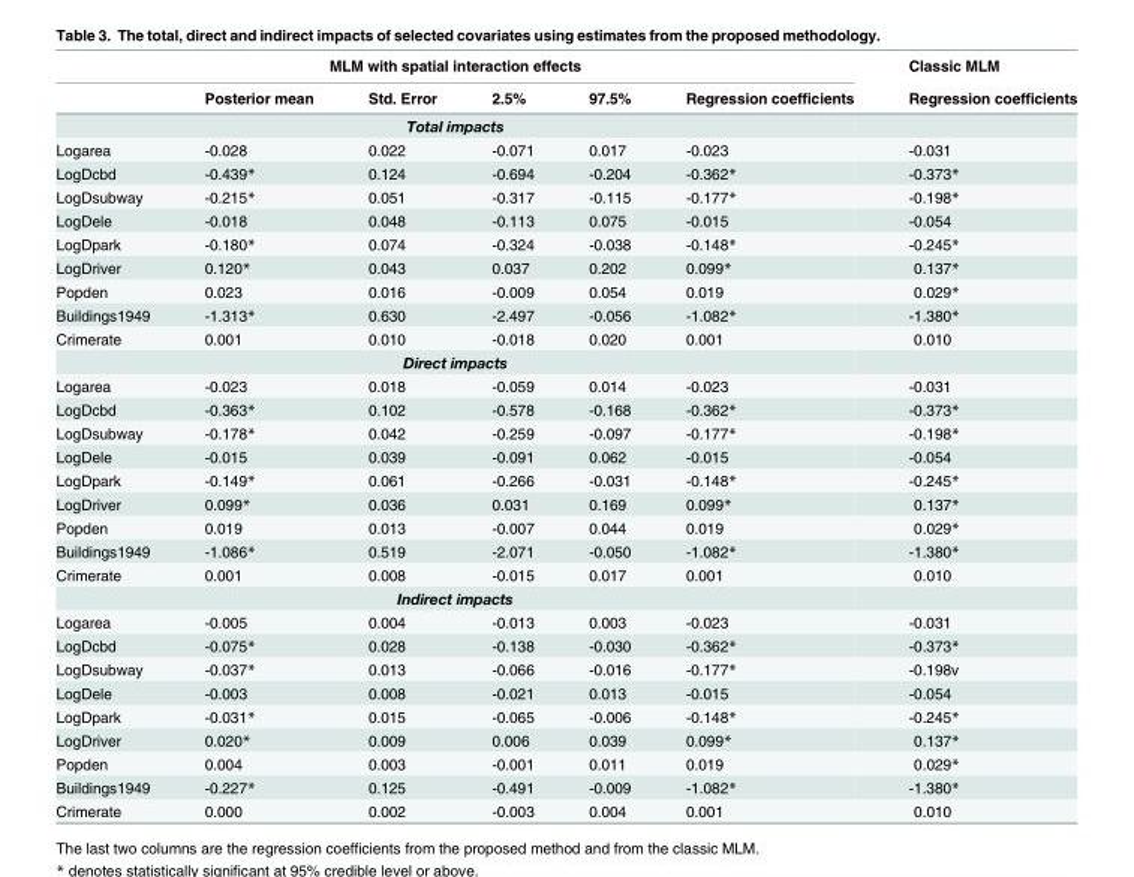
<table><thead><tr><td colspan="6">MLM with spatial interaction effects</td><td rowspan="2">Classic MLM Regression coefficients</td></tr><tr><td></td><td>Posterior mean</td><td>Std. Error</td><td>2.5%</td><td>97.5%</td><td>Regression coefficients</td></tr></thead><tbody><tr><td colspan="7">Total impacts</td></tr><tr><td>Logarea</td><td>-0.028</td><td>0.022</td><td>-0.071</td><td>0.017</td><td>-0.023</td><td>-0.031</td></tr><tr><td>LogDcbd</td><td>-0.439*</td><td>0.124</td><td>-0.694</td><td>-0.204</td><td>-0.362*</td><td>-0.373*</td></tr><tr><td>LogDsubway</td><td>-0.215*</td><td>0.051</td><td>-0.317</td><td>-0.115</td><td>-0.177*</td><td>-0.198*</td></tr><tr><td>LogDele</td><td>-0.018</td><td>0.048</td><td>-0.113</td><td>0.075</td><td>-0.015</td><td>-0.054</td></tr><tr><td>LogDpark</td><td>-0.180*</td><td>0.074</td><td>-0.324</td><td>-0.038</td><td>-0.148*</td><td>-0.245*</td></tr><tr><td>LogDriver</td><td>0.120*</td><td>0.043</td><td>0.037</td><td>0.202</td><td>0.099*</td><td>0.137*</td></tr><tr><td>Popden</td><td>0.023</td><td>0.016</td><td>-0.009</td><td>0.054</td><td>0.019</td><td>0.029*</td></tr><tr><td>Buildings1949</td><td>-1.313*</td><td>0.630</td><td>-2.497</td><td>-0.056</td><td>-1.082*</td><td>-1.380*</td></tr><tr><td>Crimerate</td><td>0.001</td><td>0.010</td><td>-0.018</td><td>0.020</td><td>0.001</td><td>0.010</td></tr><tr><td colspan="7">Direct impacts</td></tr><tr><td>Logarea</td><td>-0.023</td><td>0.018</td><td>-0.059</td><td>0.014</td><td>-0.023</td><td>-0.031</td></tr><tr><td>LogDcbd</td><td>-0.363*</td><td>0.102</td><td>-0.578</td><td>-0.168</td><td>-0.362*</td><td>-0.373*</td></tr><tr><td>LogDsubway</td><td>-0.178*</td><td>0.042</td><td>-0.259</td><td>-0.097</td><td>-0.177*</td><td>-0.198*</td></tr><tr><td>LogDele</td><td>-0.015</td><td>0.039</td><td>-0.091</td><td>0.062</td><td>-0.015</td><td>-0.054</td></tr><tr><td>LogDpark</td><td>-0.149*</td><td>0.061</td><td>-0.266</td><td>-0.031</td><td>-0.148*</td><td>-0.245*</td></tr><tr><td>LogDriver</td><td>0.099*</td><td>0.036</td><td>0.031</td><td>0.169</td><td>0.099*</td><td>0.137*</td></tr><tr><td>Popden</td><td>0.019</td><td>0.013</td><td>-0.007</td><td>0.044</td><td>0.019</td><td>0.029*</td></tr><tr><td>Buildings1949</td><td>-1.086*</td><td>0.519</td><td>-2.071</td><td>-0.050</td><td>-1.082*</td><td>-1.380*</td></tr><tr><td>Crimerate</td><td>0.001</td><td>0.008</td><td>-0.015</td><td>0.017</td><td>0.001</td><td>0.010</td></tr><tr><td colspan="7">Indirect impacts</td></tr><tr><td>Logarea</td><td>-0.005</td><td>0.004</td><td>-0.013</td><td>0.003</td><td>-0.023</td><td>-0.031</td></tr><tr><td>LogDcbd</td><td>-0.075*</td><td>0.028</td><td>-0.138</td><td>-0.030</td><td>-0.362*</td><td>-0.373*</td></tr><tr><td>LogDsubway</td><td>-0.037*</td><td>0.013</td><td>-0.066</td><td>-0.016</td><td>-0.177*</td><td>-0.198v</td></tr><tr><td>LogDele</td><td>-0.003</td><td>0.008</td><td>-0.021</td><td>0.013</td><td>-0.015</td><td>-0.054</td></tr><tr><td>LogDpark</td><td>-0.031*</td><td>0.015</td><td>-0.065</td><td>-0.006</td><td>-0.148*</td><td>-0.245*</td></tr><tr><td>LogDriver</td><td>0.020*</td><td>0.009</td><td>0.006</td><td>0.039</td><td>0.099*</td><td>0.137*</td></tr><tr><td>Popden</td><td>0.004</td><td>0.003</td><td>-0.001</td><td>0.011</td><td>0.019</td><td>0.029*</td></tr><tr><td>Buildings1949</td><td>-0.227*</td><td>0.125</td><td>-0.491</td><td>-0.009</td><td>-1.082*</td><td>-1.380*</td></tr><tr><td>Crimerate</td><td>0.000</td><td>0.002</td><td>-0.003</td><td>0.004</td><td>0.001</td><td>0.010</td></tr></tbody></table>